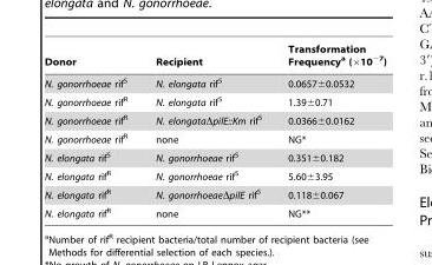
<table><thead><tr><td>Donor</td><td>Recipient</td><td>Transformation Frequency<sup>a</sup> (×10<sup>−7</sup>)</td></tr></thead><tbody><tr><td>N. gonorrhoeae rif<sup>S</sup></td><td>N. elongata rif<sup>S</sup></td><td>0.0657±0.0532</td></tr><tr><td>N. gonorrhoeae rif<sup>R</sup></td><td>N. elongata rif<sup>S</sup></td><td>1.39±0.71</td></tr><tr><td>N. gonorrhoeae rif<sup>R</sup></td><td>N. elongataΔpilE::Km rif<sup>S</sup></td><td>0.0366±0.0162</td></tr><tr><td>N. gonorrhoeae rif<sup>R</sup></td><td>none</td><td>NG*</td></tr><tr><td>N. elongata rif<sup>S</sup></td><td>N. gonorrhoeae rif<sup>S</sup></td><td>0.351±0.182</td></tr><tr><td>N. elongata rif<sup>R</sup></td><td>N. gonorrhoeae rif<sup>S</sup></td><td>5.60±3.95</td></tr><tr><td>N. elongata rif<sup>R</sup></td><td>N. gonorrhoeaeΔpilE rif<sup>S</sup></td><td>0.118±0.067</td></tr><tr><td>N. elongata rif<sup>R</sup></td><td>none</td><td>NG**</td></tr></tbody></table>